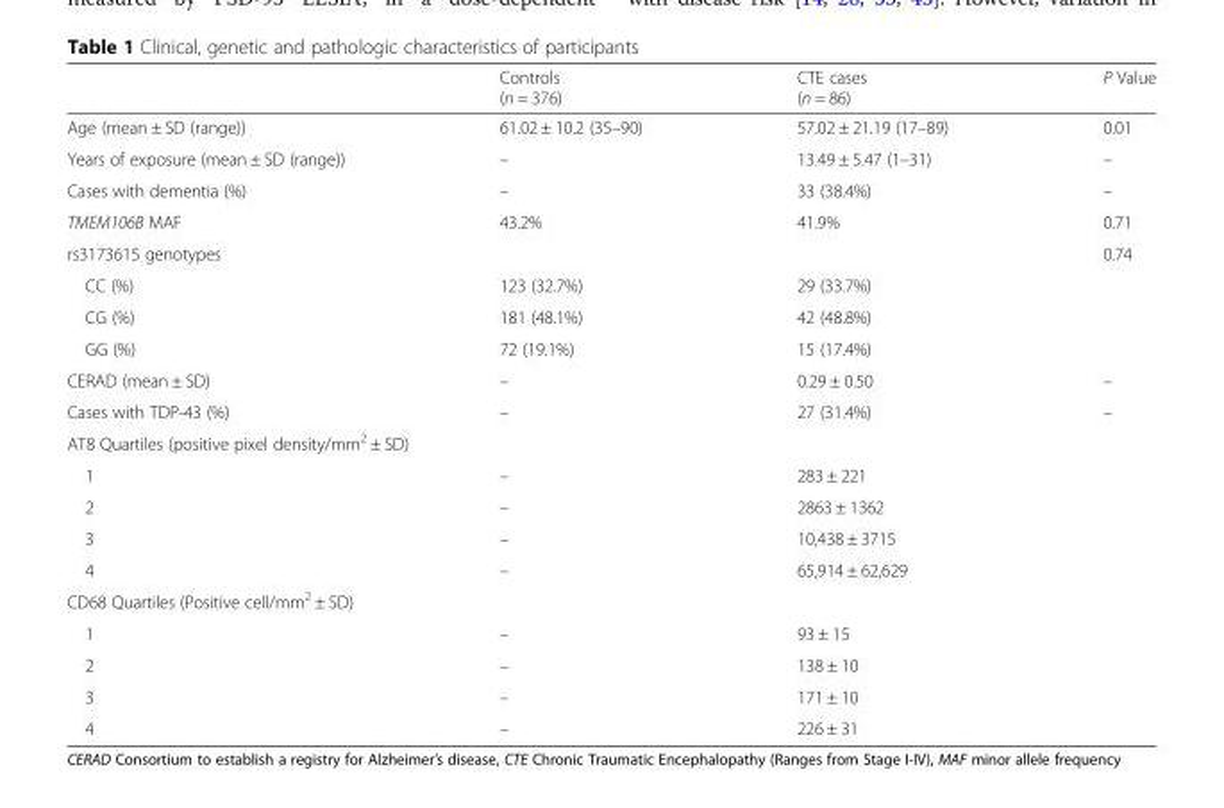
<table><thead><tr><td></td><td>Controls (n = 376)</td><td>CTE cases (n = 86)</td><td>P Value</td></tr></thead><tbody><tr><td>Age (mean ± SD (range))</td><td>61.02 ± 10.2 (35–90)</td><td>57.02 ± 21.19 (17–89)</td><td>0.01</td></tr><tr><td>Years of exposure (mean ± SD (range))</td><td>–</td><td>13.49 ± 5.47 (1–31)</td><td>–</td></tr><tr><td>Cases with dementia (%)</td><td>–</td><td>33 (38.4%)</td><td>–</td></tr><tr><td>TMEM106B MAF</td><td>43.2%</td><td>41.9%</td><td>0.71</td></tr><tr><td>rs3173615 genotypes</td><td></td><td></td><td>0.74</td></tr><tr><td>CC (%)</td><td>123 (32.7%)</td><td>29 (33.7%)</td><td></td></tr><tr><td>CG (%)</td><td>181 (48.1%)</td><td>42 (48.8%)</td><td></td></tr><tr><td>GG (%)</td><td>72 (19.1%)</td><td>15 (17.4%)</td><td></td></tr><tr><td>CERAD (mean ± SD)</td><td>–</td><td>0.29 ± 0.50</td><td>–</td></tr><tr><td>Cases with TDP-43 (%)</td><td>–</td><td>27 (31.4%)</td><td>–</td></tr><tr><td colspan="4">AT8 Quartiles (positive pixel density/mm<sup>2</sup> ± SD)</td></tr><tr><td>1</td><td>–</td><td>283 ± 221</td><td></td></tr><tr><td>2</td><td>–</td><td>2863 ± 1362</td><td></td></tr><tr><td>3</td><td>–</td><td>10,438 ± 3715</td><td></td></tr><tr><td>4</td><td>–</td><td>65,914 ± 62,629</td><td></td></tr><tr><td colspan="4">CD68 Quartiles (Positive cell/mm<sup>2</sup> ± SD)</td></tr><tr><td>1</td><td>–</td><td>93 ± 15</td><td></td></tr><tr><td>2</td><td>–</td><td>138 ± 10</td><td></td></tr><tr><td>3</td><td>–</td><td>171 ± 10</td><td></td></tr><tr><td>4</td><td>–</td><td>226 ± 31</td><td></td></tr></tbody></table>